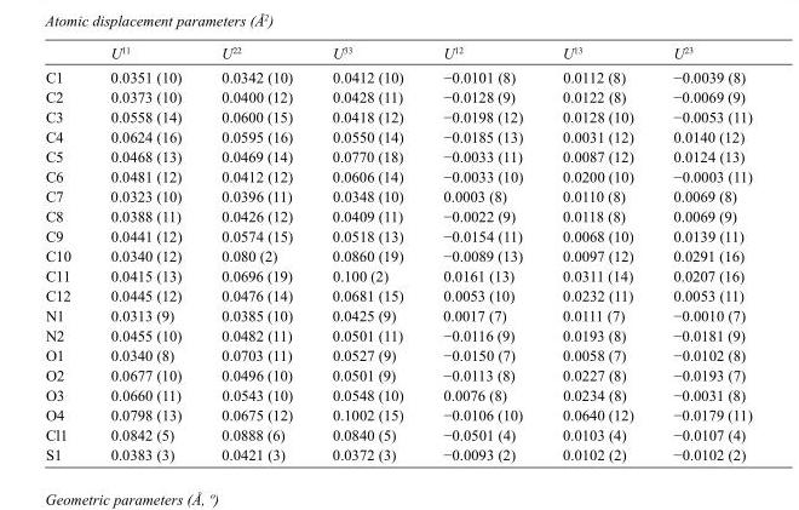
<table><thead><tr><td></td><td>U<sup>11</sup></td><td>U<sup>22</sup></td><td>U<sup>33</sup></td><td>U<sup>12</sup></td><td>U<sup>13</sup></td><td>U<sup>23</sup></td></tr></thead><tbody><tr><td>C1</td><td>0.0351 (10)</td><td>0.0342 (10)</td><td>0.0412 (10)</td><td>−0.0101 (8)</td><td>0.0112 (8)</td><td>−0.0039 (8)</td></tr><tr><td>C2</td><td>0.0373 (10)</td><td>0.0400 (12)</td><td>0.0428 (11)</td><td>−0.0128 (9)</td><td>0.0122 (8)</td><td>−0.0069 (9)</td></tr><tr><td>C3</td><td>0.0558 (14)</td><td>0.0600 (15)</td><td>0.0418 (12)</td><td>−0.0198 (12)</td><td>0.0128 (10)</td><td>−0.0053 (11)</td></tr><tr><td>C4</td><td>0.0624 (16)</td><td>0.0595 (16)</td><td>0.0550 (14)</td><td>−0.0185 (13)</td><td>0.0031 (12)</td><td>0.0140 (12)</td></tr><tr><td>C5</td><td>0.0468 (13)</td><td>0.0469 (14)</td><td>0.0770 (18)</td><td>−0.0033 (11)</td><td>0.0087 (12)</td><td>0.0124 (13)</td></tr><tr><td>C6</td><td>0.0481 (12)</td><td>0.0412 (12)</td><td>0.0606 (14)</td><td>−0.0033 (10)</td><td>0.0200 (10)</td><td>−0.0003 (11)</td></tr><tr><td>C7</td><td>0.0323 (10)</td><td>0.0396 (11)</td><td>0.0348 (10)</td><td>0.0003 (8)</td><td>0.0110 (8)</td><td>0.0069 (8)</td></tr><tr><td>C8</td><td>0.0388 (11)</td><td>0.0426 (12)</td><td>0.0409 (11)</td><td>−0.0022 (9)</td><td>0.0118 (8)</td><td>0.0069 (9)</td></tr><tr><td>C9</td><td>0.0441 (12)</td><td>0.0574 (15)</td><td>0.0518 (13)</td><td>−0.0154 (11)</td><td>0.0068 (10)</td><td>0.0139 (11)</td></tr><tr><td>C10</td><td>0.0340 (12)</td><td>0.080 (2)</td><td>0.0860 (19)</td><td>−0.0089 (13)</td><td>0.0097 (12)</td><td>0.0291 (16)</td></tr><tr><td>C11</td><td>0.0415 (13)</td><td>0.0696 (19)</td><td>0.100 (2)</td><td>0.0161 (13)</td><td>0.0311 (14)</td><td>0.0207 (16)</td></tr><tr><td>C12</td><td>0.0445 (12)</td><td>0.0476 (14)</td><td>0.0681 (15)</td><td>0.0053 (10)</td><td>0.0232 (11)</td><td>0.0053 (11)</td></tr><tr><td>N1</td><td>0.0313 (9)</td><td>0.0385 (10)</td><td>0.0425 (9)</td><td>0.0017 (7)</td><td>0.0111 (7)</td><td>−0.0010 (7)</td></tr><tr><td>N2</td><td>0.0455 (10)</td><td>0.0482 (11)</td><td>0.0501 (11)</td><td>−0.0116 (9)</td><td>0.0193 (8)</td><td>−0.0181 (9)</td></tr><tr><td>O1</td><td>0.0340 (8)</td><td>0.0703 (11)</td><td>0.0527 (9)</td><td>−0.0150 (7)</td><td>0.0058 (7)</td><td>−0.0102 (8)</td></tr><tr><td>O2</td><td>0.0677 (10)</td><td>0.0496 (10)</td><td>0.0501 (9)</td><td>−0.0113 (8)</td><td>0.0227 (8)</td><td>−0.0193 (7)</td></tr><tr><td>O3</td><td>0.0660 (11)</td><td>0.0543 (10)</td><td>0.0548 (10)</td><td>0.0076 (8)</td><td>0.0234 (8)</td><td>−0.0031 (8)</td></tr><tr><td>O4</td><td>0.0798 (13)</td><td>0.0675 (12)</td><td>0.1002 (15)</td><td>−0.0106 (10)</td><td>0.0640 (12)</td><td>−0.0179 (11)</td></tr><tr><td>Cl1</td><td>0.0842 (5)</td><td>0.0888 (6)</td><td>0.0840 (5)</td><td>−0.0501 (4)</td><td>0.0103 (4)</td><td>−0.0107 (4)</td></tr><tr><td>S1</td><td>0.0383 (3)</td><td>0.0421 (3)</td><td>0.0372 (3)</td><td>−0.0093 (2)</td><td>0.0102 (2)</td><td>−0.0102 (2)</td></tr></tbody></table>